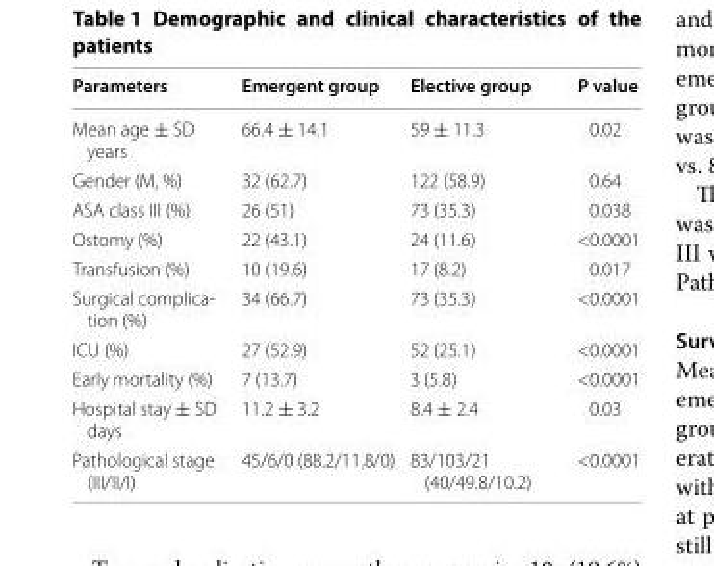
<table><thead><tr><td>Parameters</td><td>Emergent group</td><td>Elective group</td><td>P value</td></tr></thead><tbody><tr><td>Mean age ± SD years</td><td>66.4 ± 14.1</td><td>59 ± 11.3</td><td>0.02</td></tr><tr><td>Gender (M, %)</td><td>32 (62.7)</td><td>122 (58.9)</td><td>0.64</td></tr><tr><td>ASA class III (%)</td><td>26 (51)</td><td>73 (35.3)</td><td>0.038</td></tr><tr><td>Ostomy (%)</td><td>22 (43.1)</td><td>24 (11.6)</td><td>&lt;0.0001</td></tr><tr><td>Transfusion (%)</td><td>10 (19.6)</td><td>17 (8.2)</td><td>0.017</td></tr><tr><td>Surgical complica- tion (%)</td><td>34 (66.7)</td><td>73 (35.3)</td><td>&lt;0.0001</td></tr><tr><td>ICU (%)</td><td>27 (52.9)</td><td>52 (25.1)</td><td>&lt;0.0001</td></tr><tr><td>Early mortality (%)</td><td>7 (13.7)</td><td>3 (5.8)</td><td>&lt;0.0001</td></tr><tr><td>Hospital stay ± SD days</td><td>11.2 ± 3.2</td><td>8.4 ± 2.4</td><td>0.03</td></tr><tr><td>Pathological stage (III/II/I)</td><td>45/6/0 (88.2/11.8/0)</td><td>83/103/21 (40/49.8/10.2)</td><td>&lt;0.0001</td></tr></tbody></table>